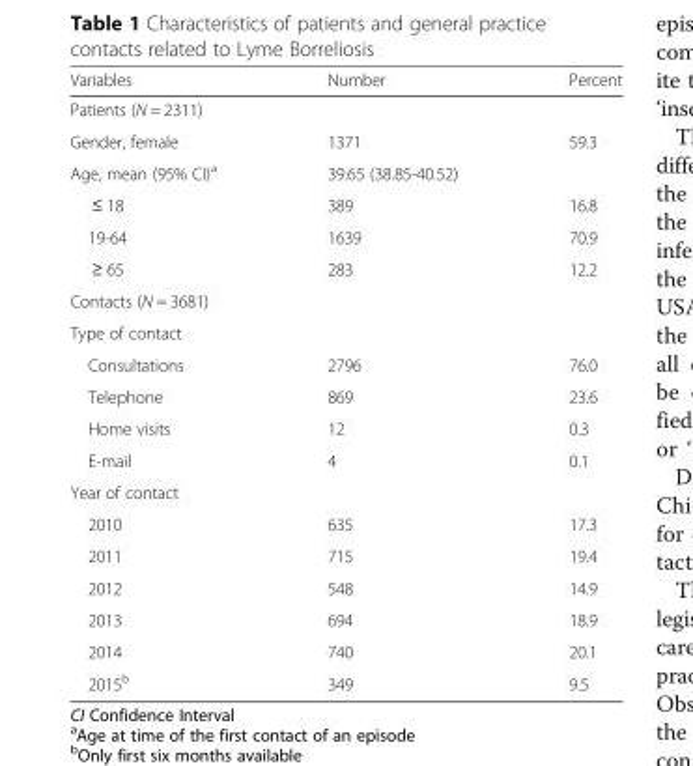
<table><thead><tr><td>Variables</td><td>Number</td><td>Percent</td></tr></thead><tbody><tr><td colspan="3">Patients (N = 2311)</td></tr><tr><td>Gender, female</td><td>1371</td><td>59.3</td></tr><tr><td>Age, mean (95% CI)<sup>a</sup></td><td>39.65 (38.85-40.52)</td><td></td></tr><tr><td>≤ 18</td><td>389</td><td>16.8</td></tr><tr><td>19-64</td><td>1639</td><td>70.9</td></tr><tr><td>≥ 65</td><td>283</td><td>12.2</td></tr><tr><td colspan="3">Contacts (N = 3681)</td></tr><tr><td colspan="3">Type of contact</td></tr><tr><td>Consultations</td><td>2796</td><td>76.0</td></tr><tr><td>Telephone</td><td>869</td><td>23.6</td></tr><tr><td>Home visits</td><td>12</td><td>0.3</td></tr><tr><td>E-mail</td><td>4</td><td>0.1</td></tr><tr><td colspan="3">Year of contact</td></tr><tr><td>2010</td><td>635</td><td>17.3</td></tr><tr><td>2011</td><td>715</td><td>19.4</td></tr><tr><td>2012</td><td>548</td><td>14.9</td></tr><tr><td>2013</td><td>694</td><td>18.9</td></tr><tr><td>2014</td><td>740</td><td>20.1</td></tr><tr><td>2015<sup>b</sup></td><td>349</td><td>9.5</td></tr></tbody></table>